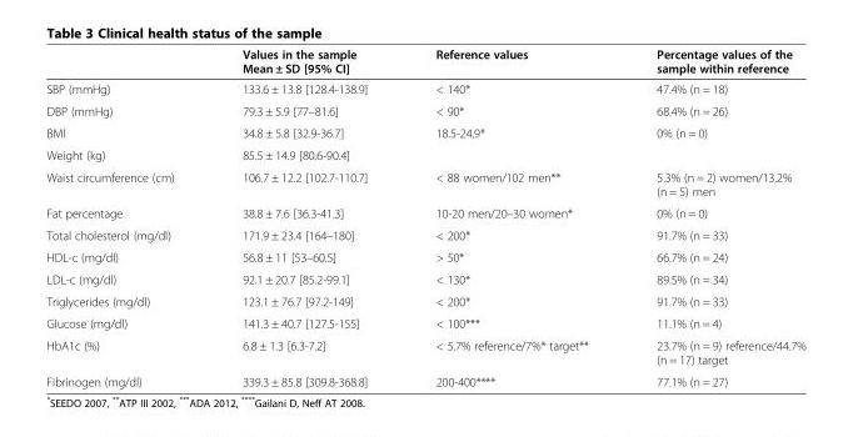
<table><thead><tr><td></td><td>Values in the sample Mean ± SD [95% CI]</td><td>Reference values</td><td>Percentage values of the sample within reference</td></tr></thead><tbody><tr><td>SBP (mmHg)</td><td>133.6 ± 13.8 [128.4-138.9]</td><td>&lt; 140*</td><td>47.4% (n = 18)</td></tr><tr><td>DBP (mmHg)</td><td>79.3 ± 5.9 [77–81.6]</td><td>&lt; 90*</td><td>68.4% (n = 26)</td></tr><tr><td>BMI</td><td>34.8 ± 5.8 [32.9-36.7]</td><td>18.5-24.9*</td><td>0% (n = 0)</td></tr><tr><td>Weight (kg)</td><td>85.5 ± 14.9 [80.6-90.4]</td><td></td><td></td></tr><tr><td>Waist circumference (cm)</td><td>106.7 ± 12.2 [102.7-110.7]</td><td>&lt; 88 women/102 men**</td><td>5.3% (n = 2) women/13.2% (n = 5) men</td></tr><tr><td>Fat percentage</td><td>38.8 ± 7.6 [36.3-41.3]</td><td>10-20 men/20–30 women*</td><td>0% (n = 0)</td></tr><tr><td>Total cholesterol (mg/dl)</td><td>171.9 ± 23.4 [164–180]</td><td>&lt; 200*</td><td>91.7% (n = 33)</td></tr><tr><td>HDL-c (mg/dl)</td><td>56.8 ± 11 [53–60.5]</td><td>&gt; 50*</td><td>66.7% (n = 24)</td></tr><tr><td>LDL-c (mg/dl)</td><td>92.1 ± 20.7 [85.2-99.1]</td><td>&lt; 130*</td><td>89.5% (n = 34)</td></tr><tr><td>Triglycerides (mg/dl)</td><td>123.1 ± 76.7 [97.2-149]</td><td>&lt; 200*</td><td>91.7% (n = 33)</td></tr><tr><td>Glucose (mg/dl)</td><td>141.3 ± 40.7 [127.5-155]</td><td>&lt; 100***</td><td>11.1% (n = 4)</td></tr><tr><td>HbA1c (%)</td><td>6.8 ± 1.3 [6.3-7.2]</td><td>&lt; 5.7% reference/7%* target**</td><td>23.7% (n = 9) reference/44.7% (n = 17) target</td></tr><tr><td>Fibrinogen (mg/dl)</td><td>339.3 ± 85.8 [309.8-368.8]</td><td>200-400****</td><td>77.1% (n = 27)</td></tr></tbody></table>